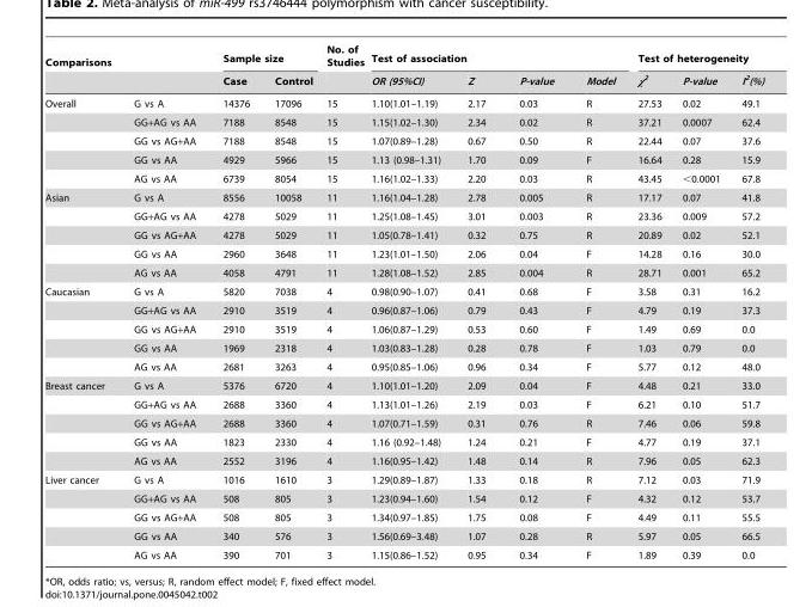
<table><thead><tr><td colspan="2">Comparisons</td><td colspan="2">Sample size</td><td rowspan="2">No. of Studies</td><td colspan="4">Test of association</td><td colspan="3">Test of heterogeneity</td></tr><tr><td></td><td></td><td>Case</td><td>Control</td><td>OR (95%CI)</td><td>Z</td><td>P-value</td><td>Model</td><td>χ<sup>2</sup></td><td>P-value</td><td>I<sup>2</sup>(%)</td></tr></thead><tbody><tr><td rowspan="5">Overall</td><td>G vs A</td><td>14376</td><td>17096</td><td>15</td><td>1.10(1.01–1.19)</td><td>2.17</td><td>0.03</td><td>R</td><td>27.53</td><td>0.02</td><td>49.1</td></tr><tr><td>GG+AG vs AA</td><td>7188</td><td>8548</td><td>15</td><td>1.15(1.02–1.30)</td><td>2.34</td><td>0.02</td><td>R</td><td>37.21</td><td>0.0007</td><td>62.4</td></tr><tr><td>GG vs AG+AA</td><td>7188</td><td>8548</td><td>15</td><td>1.07(0.89–1.28)</td><td>0.67</td><td>0.50</td><td>R</td><td>22.44</td><td>0.07</td><td>37.6</td></tr><tr><td>GG vs AA</td><td>4929</td><td>5966</td><td>15</td><td>1.13 (0.98–1.31)</td><td>1.70</td><td>0.09</td><td>F</td><td>16.64</td><td>0.28</td><td>15.9</td></tr><tr><td>AG vs AA</td><td>6739</td><td>8054</td><td>15</td><td>1.16(1.02–1.33)</td><td>2.20</td><td>0.03</td><td>R</td><td>43.45</td><td>&lt;0.0001</td><td>67.8</td></tr><tr><td rowspan="5">Asian</td><td>G vs A</td><td>8556</td><td>10058</td><td>11</td><td>1.16(1.04–1.28)</td><td>2.78</td><td>0.005</td><td>R</td><td>17.17</td><td>0.07</td><td>41.8</td></tr><tr><td>GG+AG vs AA</td><td>4278</td><td>5029</td><td>11</td><td>1.25(1.08–1.45)</td><td>3.01</td><td>0.003</td><td>R</td><td>23.36</td><td>0.009</td><td>57.2</td></tr><tr><td>GG vs AG+AA</td><td>4278</td><td>5029</td><td>11</td><td>1.05(0.78–1.41)</td><td>0.32</td><td>0.75</td><td>R</td><td>20.89</td><td>0.02</td><td>52.1</td></tr><tr><td>GG vs AA</td><td>2960</td><td>3648</td><td>11</td><td>1.23(1.01–1.50)</td><td>2.06</td><td>0.04</td><td>F</td><td>14.28</td><td>0.16</td><td>30.0</td></tr><tr><td>AG vs AA</td><td>4058</td><td>4791</td><td>11</td><td>1.28(1.08–1.52)</td><td>2.85</td><td>0.004</td><td>R</td><td>28.71</td><td>0.001</td><td>65.2</td></tr><tr><td rowspan="5">Caucasian</td><td>G vs A</td><td>5820</td><td>7038</td><td>4</td><td>0.98(0.90–1.07)</td><td>0.41</td><td>0.68</td><td>F</td><td>3.58</td><td>0.31</td><td>16.2</td></tr><tr><td>GG+AG vs AA</td><td>2910</td><td>3519</td><td>4</td><td>0.96(0.87–1.06)</td><td>0.79</td><td>0.43</td><td>F</td><td>4.79</td><td>0.19</td><td>37.3</td></tr><tr><td>GG vs AG+AA</td><td>2910</td><td>3519</td><td>4</td><td>1.06(0.87–1.29)</td><td>0.53</td><td>0.60</td><td>F</td><td>1.49</td><td>0.69</td><td>0.0</td></tr><tr><td>GG vs AA</td><td>1969</td><td>2318</td><td>4</td><td>1.03(0.83–1.28)</td><td>0.28</td><td>0.78</td><td>F</td><td>1.03</td><td>0.79</td><td>0.0</td></tr><tr><td>AG vs AA</td><td>2681</td><td>3263</td><td>4</td><td>0.95(0.85–1.06)</td><td>0.96</td><td>0.34</td><td>F</td><td>5.77</td><td>0.12</td><td>48.0</td></tr><tr><td rowspan="5">Breast cancer</td><td>G vs A</td><td>5376</td><td>6720</td><td>4</td><td>1.10(1.01–1.20)</td><td>2.09</td><td>0.04</td><td>F</td><td>4.48</td><td>0.21</td><td>33.0</td></tr><tr><td>GG+AG vs AA</td><td>2688</td><td>3360</td><td>4</td><td>1.13(1.01–1.26)</td><td>2.19</td><td>0.03</td><td>F</td><td>6.21</td><td>0.10</td><td>51.7</td></tr><tr><td>GG vs AG+AA</td><td>2688</td><td>3360</td><td>4</td><td>1.07(0.71–1.59)</td><td>0.31</td><td>0.76</td><td>R</td><td>7.46</td><td>0.06</td><td>59.8</td></tr><tr><td>GG vs AA</td><td>1823</td><td>2330</td><td>4</td><td>1.16 (0.92–1.48)</td><td>1.24</td><td>0.21</td><td>F</td><td>4.77</td><td>0.19</td><td>37.1</td></tr><tr><td>AG vs AA</td><td>2552</td><td>3196</td><td>4</td><td>1.16(0.95–1.42)</td><td>1.48</td><td>0.14</td><td>R</td><td>7.96</td><td>0.05</td><td>62.3</td></tr><tr><td rowspan="5">Liver cancer</td><td>G vs A</td><td>1016</td><td>1610</td><td>3</td><td>1.29(0.89–1.87)</td><td>1.33</td><td>0.18</td><td>R</td><td>7.12</td><td>0.03</td><td>71.9</td></tr><tr><td>GG+AG vs AA</td><td>508</td><td>805</td><td>3</td><td>1.23(0.94–1.60)</td><td>1.54</td><td>0.12</td><td>F</td><td>4.32</td><td>0.12</td><td>53.7</td></tr><tr><td>GG vs AG+AA</td><td>508</td><td>805</td><td>3</td><td>1.34(0.97–1.85)</td><td>1.75</td><td>0.08</td><td>F</td><td>4.49</td><td>0.11</td><td>55.5</td></tr><tr><td>GG vs AA</td><td>340</td><td>576</td><td>3</td><td>1.56(0.69–3.48)</td><td>1.07</td><td>0.28</td><td>R</td><td>5.97</td><td>0.05</td><td>66.5</td></tr><tr><td>AG vs AA</td><td>390</td><td>701</td><td>3</td><td>1.15(0.86–1.52)</td><td>0.95</td><td>0.34</td><td>F</td><td>1.89</td><td>0.39</td><td>0.0</td></tr></tbody></table>